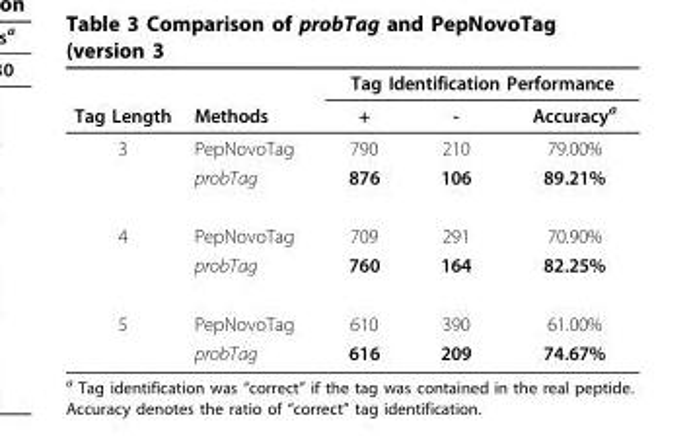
<table><thead><tr><td rowspan="2">Tag Length</td><td rowspan="2">Methods</td><td colspan="3">Tag Identification Performance</td></tr><tr><td>+</td><td>-</td><td>Accuracy<sup>a</sup></td></tr></thead><tbody><tr><td rowspan="2">3</td><td>PepNovoTag</td><td>790</td><td>210</td><td>79.00%</td></tr><tr><td>probTag</td><td>876</td><td>106</td><td>89.21%</td></tr><tr><td rowspan="2">4</td><td>PepNovoTag</td><td>709</td><td>291</td><td>70.90%</td></tr><tr><td>probTag</td><td>760</td><td>164</td><td>82.25%</td></tr><tr><td rowspan="2">5</td><td>PepNovoTag</td><td>610</td><td>390</td><td>61.00%</td></tr><tr><td>probTag</td><td>616</td><td>209</td><td>74.67%</td></tr></tbody></table>